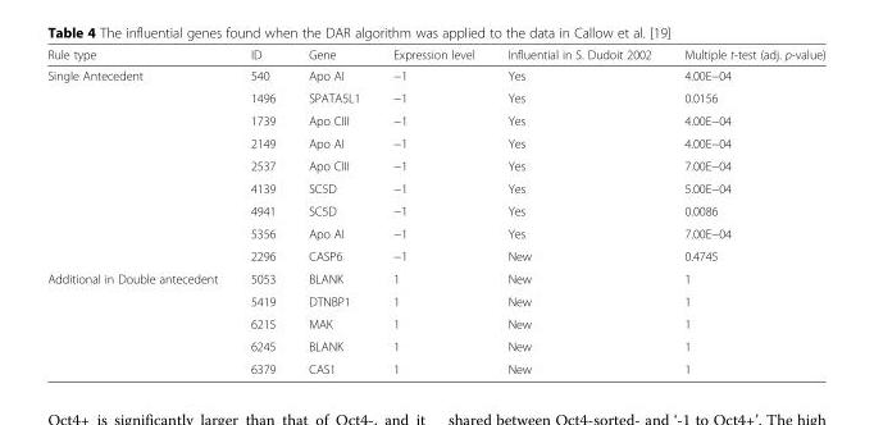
<table><thead><tr><td>Rule type</td><td>ID</td><td>Gene</td><td>Expression level</td><td>Influential in S. Dudoit 2002</td><td>Multiple t-test (adj. p-value)</td></tr></thead><tbody><tr><td rowspan="9">Single Antecedent</td><td>540</td><td>Apo AI</td><td>−1</td><td>Yes</td><td>4.00E−04</td></tr><tr><td>1496</td><td>SPATA5L1</td><td>−1</td><td>Yes</td><td>0.0156</td></tr><tr><td>1739</td><td>Apo CIII</td><td>−1</td><td>Yes</td><td>4.00E−04</td></tr><tr><td>2149</td><td>Apo AI</td><td>−1</td><td>Yes</td><td>4.00E−04</td></tr><tr><td>2537</td><td>Apo CIII</td><td>−1</td><td>Yes</td><td>7.00E−04</td></tr><tr><td>4139</td><td>SC5D</td><td>−1</td><td>Yes</td><td>5.00E−04</td></tr><tr><td>4941</td><td>SC5D</td><td>−1</td><td>Yes</td><td>0.0086</td></tr><tr><td>5356</td><td>Apo AI</td><td>−1</td><td>Yes</td><td>7.00E−04</td></tr><tr><td>2296</td><td>CASP6</td><td>−1</td><td>New</td><td>0.4745</td></tr><tr><td rowspan="5">Additional in Double antecedent</td><td>5053</td><td>BLANK</td><td>1</td><td>New</td><td>1</td></tr><tr><td>5419</td><td>DTNBP1</td><td>1</td><td>New</td><td>1</td></tr><tr><td>6215</td><td>MAK</td><td>1</td><td>New</td><td>1</td></tr><tr><td>6245</td><td>BLANK</td><td>1</td><td>New</td><td>1</td></tr><tr><td>6379</td><td>CAS1</td><td>1</td><td>New</td><td>1</td></tr></tbody></table>